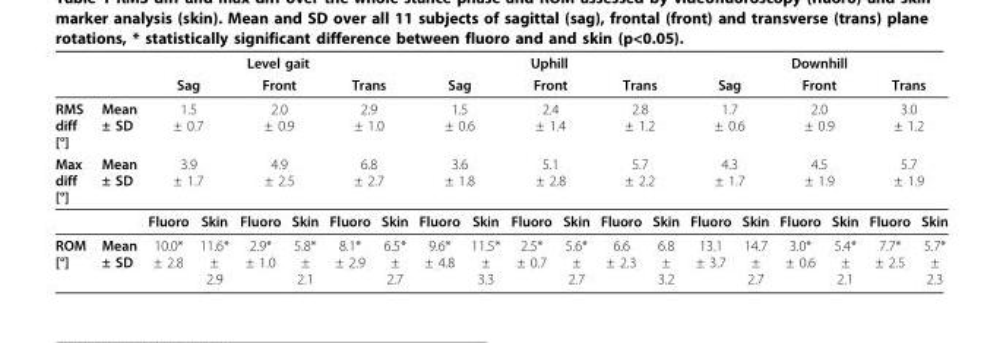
<table><thead><tr><td rowspan="5">RMS diff [°] Max diff [°]</td><td rowspan="5">Mean ± SD Mean ± SD</td><td colspan="6">Level gait</td><td colspan="6">Uphill</td><td colspan="6">Downhill</td></tr><tr><td rowspan="3" colspan="2">Sag 1.5 ± 0.7 3.9 ± 1.7</td><td rowspan="3" colspan="2">Front 2.0 ± 0.9 4.9 ± 2.5</td><td rowspan="3" colspan="2">Trans 2.9 ± 1.0 6.8 ± 2.7</td><td rowspan="3" colspan="2">Sag 1.5 ± 0.6 3.6 ± 1.8</td><td rowspan="3" colspan="2">Front 2.4 ± 1.4 5.1 ± 2.8</td><td rowspan="3" colspan="2">Trans 2.8 ± 1.2 5.7 ± 2.2</td><td rowspan="3" colspan="2">Sag 1.7 ± 0.6 4.3 ± 1.7</td><td rowspan="3" colspan="2">Front 2.0 ± 0.9 4.5 ± 1.9</td><td rowspan="3" colspan="2">Trans 3.0 ± 1.2 5.7 ± 1.9</td></tr><tr></tr><tr></tr><tr><td>Fluoro</td><td>Skin</td><td>Fluoro</td><td>Skin</td><td>Fluoro</td><td>Skin</td><td>Fluoro</td><td>Skin</td><td>Fluoro</td><td>Skin</td><td>Fluoro</td><td>Skin</td><td>Fluoro</td><td>Skin</td><td>Fluoro</td><td>Skin</td><td>Fluoro</td><td>Skin</td></tr></thead><tbody><tr><td>ROM [°]</td><td>Mean ± SD</td><td>10.0* ± 2.8</td><td>11.6* ± 2.9</td><td>2.9* ± 1.0</td><td>5.8* ± 2.1</td><td>8.1* ± 2.9</td><td>6.5* ± 2.7</td><td>9.6* ± 4.8</td><td>11.5* ± 3.3</td><td>2.5* ± 0.7</td><td>5.6* ± 2.7</td><td>6.6 ± 2.3</td><td>6.8 ± 3.2</td><td>13.1 ± 3.7</td><td>14.7 ± 2.7</td><td>3.0* ± 0.6</td><td>5.4* ± 2.1</td><td>7.7* ± 2.5</td><td>5.7* ± 2.3</td></tr></tbody></table>